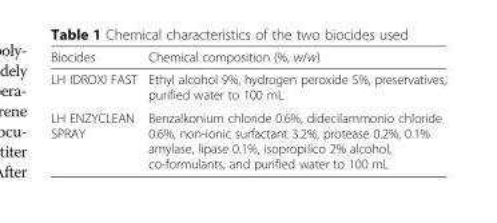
<table><thead><tr><td>Biocides</td><td>Chemical composition (%, w/w)</td></tr></thead><tbody><tr><td>LH IDROXI FAST</td><td>Ethyl alcohol 9%, hydrogen peroxide 5%, preservatives, purified water to 100 mL</td></tr><tr><td>LH ENZYCLEAN SPRAY</td><td>Benzalkonium chloride 0.6%, didecilammonio chloride 0.6%, non-ionic surfactant 3.2%, protease 0.2%, 0.1% amylase, lipase 0.1%, isopropilico 2% alcohol, co-formulants, and purified water to 100 mL</td></tr></tbody></table>